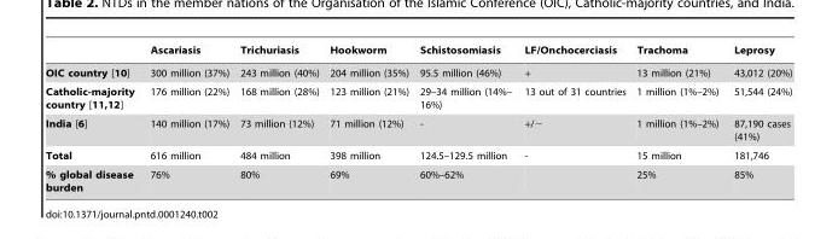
<table><thead><tr><td></td><td>Ascariasis</td><td>Trichuriasis</td><td>Hookworm</td><td>Schistosomiasis</td><td>LF/Onchocerciasis</td><td>Trachoma</td><td>Leprosy</td></tr></thead><tbody><tr><td>OIC country [10]</td><td>300 million (37%)</td><td>243 million (40%)</td><td>204 million (35%)</td><td>95.5 million (46%)</td><td>+</td><td>13 million (21%)</td><td>43,012 (20%)</td></tr><tr><td>Catholic-majority country [11,12]</td><td>176 million (22%)</td><td>168 million (28%)</td><td>123 million (21%)</td><td>29–34 million (14%– 16%)</td><td>13 out of 31 countries</td><td>1 million (1%–2%)</td><td>51,544 (24%)</td></tr><tr><td>India [6]</td><td>140 million (17%)</td><td>73 million (12%)</td><td>71 million (12%)</td><td>-</td><td>+/−</td><td>1 million (1%–2%)</td><td>87,190 cases (41%)</td></tr><tr><td>Total</td><td>616 million</td><td>484 million</td><td>398 million</td><td>124.5–129.5 million</td><td>-</td><td>15 million</td><td>181,746</td></tr><tr><td>% global disease burden</td><td>76%</td><td>80%</td><td>69%</td><td>60%–62%</td><td></td><td>25%</td><td>85%</td></tr></tbody></table>